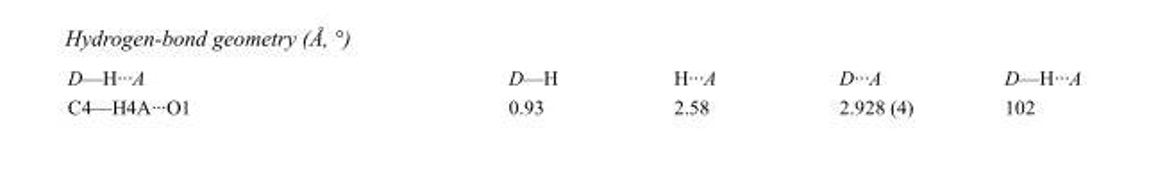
<table><tbody><tr><td>D—H···A</td><td>D—H</td><td>H···A</td><td>D···A</td><td>D—H···A</td></tr><tr><td>C4—H4A···O1</td><td>0.93</td><td>2.58</td><td>2.928 (4)</td><td>102</td></tr></tbody></table>